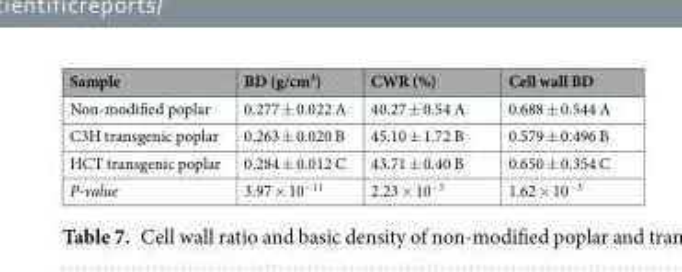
<table><thead><tr><td>Sample</td><td>BD (g/cm<sup>3</sup>)</td><td>CWR (%)</td><td>Cell wall BD</td></tr></thead><tbody><tr><td>Non-modified poplar</td><td>0.277 ± 0.022 A</td><td>40.27 ± 0.54 A</td><td>0.688 ± 0.544 A</td></tr><tr><td>C3H transgenic poplar</td><td>0.263 ± 0.020 B</td><td>45.10 ± 1.72 B</td><td>0.579 ± 0.496 B</td></tr><tr><td>HCT transgenic poplar</td><td>0.284 ± 0.012 C</td><td>43.71 ± 0.40 B</td><td>0.650 ± 0.354 C</td></tr><tr><td>P-value</td><td>3.97 × 10<sup>−11</sup></td><td>2.23 × 10<sup>−5</sup></td><td>1.62 × 10<sup>−3</sup></td></tr></tbody></table>